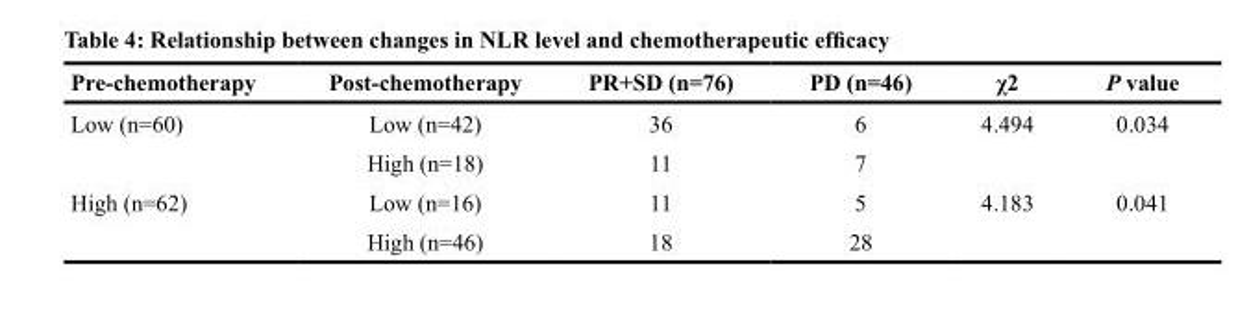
<table><thead><tr><td>Pre-chemotherapy</td><td>Post-chemotherapy</td><td>PR+SD (n=76)</td><td>PD (n=46)</td><td>χ2</td><td>P value</td></tr></thead><tbody><tr><td rowspan="2">Low (n=60)</td><td>Low (n=42)</td><td>36</td><td>6</td><td rowspan="2">4.494</td><td rowspan="2">0.034</td></tr><tr><td>High (n=18)</td><td>11</td><td>7</td></tr><tr><td rowspan="2">High (n=62)</td><td>Low (n=16)</td><td>11</td><td>5</td><td rowspan="2">4.183</td><td rowspan="2">0.041</td></tr><tr><td>High (n=46)</td><td>18</td><td>28</td></tr></tbody></table>